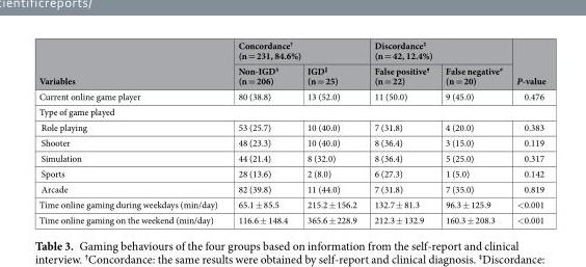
<table><thead><tr><td rowspan="2">Variables</td><td colspan="2">Concordance<sup>†</sup> (n = 231, 84.6%)</td><td colspan="2">Discordance<sup>‡</sup> (n = 42, 12.4%)</td><td rowspan="2">P-value</td></tr><tr><td>Non-IGD<sup>§</sup> (n = 206)</td><td>IGD<sup>∥</sup> (n = 25)</td><td>False positive<sup>¶</sup> (n = 22)</td><td>False negative<sup>#</sup> (n = 20)</td></tr></thead><tbody><tr><td>Current online game player</td><td>80 (38.8)</td><td>13 (52.0)</td><td>11 (50.0)</td><td>9 (45.0)</td><td>0.476</td></tr><tr><td colspan="6">Type of game played</td></tr><tr><td>Role playing</td><td>53 (25.7)</td><td>10 (40.0)</td><td>7 (31.8)</td><td>4 (20.0)</td><td>0.383</td></tr><tr><td>Shooter</td><td>48 (23.3)</td><td>10 (40.0)</td><td>8 (36.4)</td><td>3 (15.0)</td><td>0.119</td></tr><tr><td>Simulation</td><td>44 (21.4)</td><td>8 (32.0)</td><td>8 (36.4)</td><td>5 (25.0)</td><td>0.317</td></tr><tr><td>Sports</td><td>28 (13.6)</td><td>2 (8.0)</td><td>6 (27.3)</td><td>1 (5.0)</td><td>0.142</td></tr><tr><td>Arcade</td><td>82 (39.8)</td><td>11 (44.0)</td><td>7 (31.8)</td><td>7 (35.0)</td><td>0.819</td></tr><tr><td>Time online gaming during weekdays (min/day)</td><td>65.1 ± 85.5</td><td>215.2 ± 156.2</td><td>132.7 ± 81.3</td><td>96.3 ± 125.9</td><td>&lt;0.001</td></tr><tr><td>Time online gaming on the weekend (min/day)</td><td>116.6 ± 148.4</td><td>365.6 ± 228.9</td><td>212.3 ± 132.9</td><td>160.3 ± 208.3</td><td>&lt;0.001</td></tr></tbody></table>